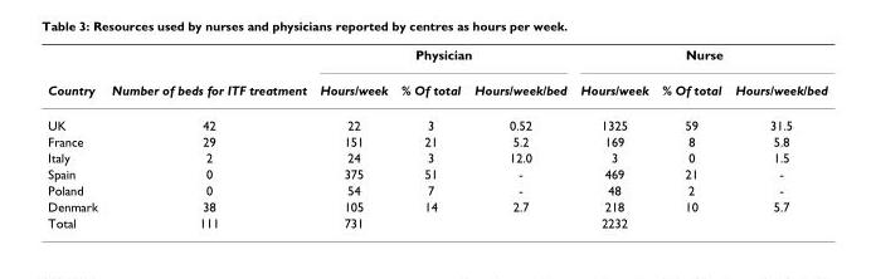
<table><thead><tr><td rowspan="2">Country</td><td rowspan="2">Number of beds for ITF treatment</td><td colspan="3">Physician</td><td colspan="3">Nurse</td></tr><tr><td>Hours/week</td><td>% Of total</td><td>Hours/week/bed</td><td>Hours/week</td><td>% Of total</td><td>Hours/week/bed</td></tr></thead><tbody><tr><td>UK</td><td>42</td><td>22</td><td>3</td><td>0.52</td><td>1325</td><td>59</td><td>31.5</td></tr><tr><td>France</td><td>29</td><td>151</td><td>21</td><td>5.2</td><td>169</td><td>8</td><td>5.8</td></tr><tr><td>Italy</td><td>2</td><td>24</td><td>3</td><td>12.0</td><td>3</td><td>0</td><td>1.5</td></tr><tr><td>Spain</td><td>0</td><td>375</td><td>51</td><td>-</td><td>469</td><td>21</td><td>-</td></tr><tr><td>Poland</td><td>0</td><td>54</td><td>7</td><td>-</td><td>48</td><td>2</td><td>-</td></tr><tr><td>Denmark</td><td>38</td><td>105</td><td>14</td><td>2.7</td><td>218</td><td>10</td><td>5.7</td></tr><tr><td>Total</td><td>111</td><td>731</td><td></td><td></td><td>2232</td><td></td><td></td></tr></tbody></table>